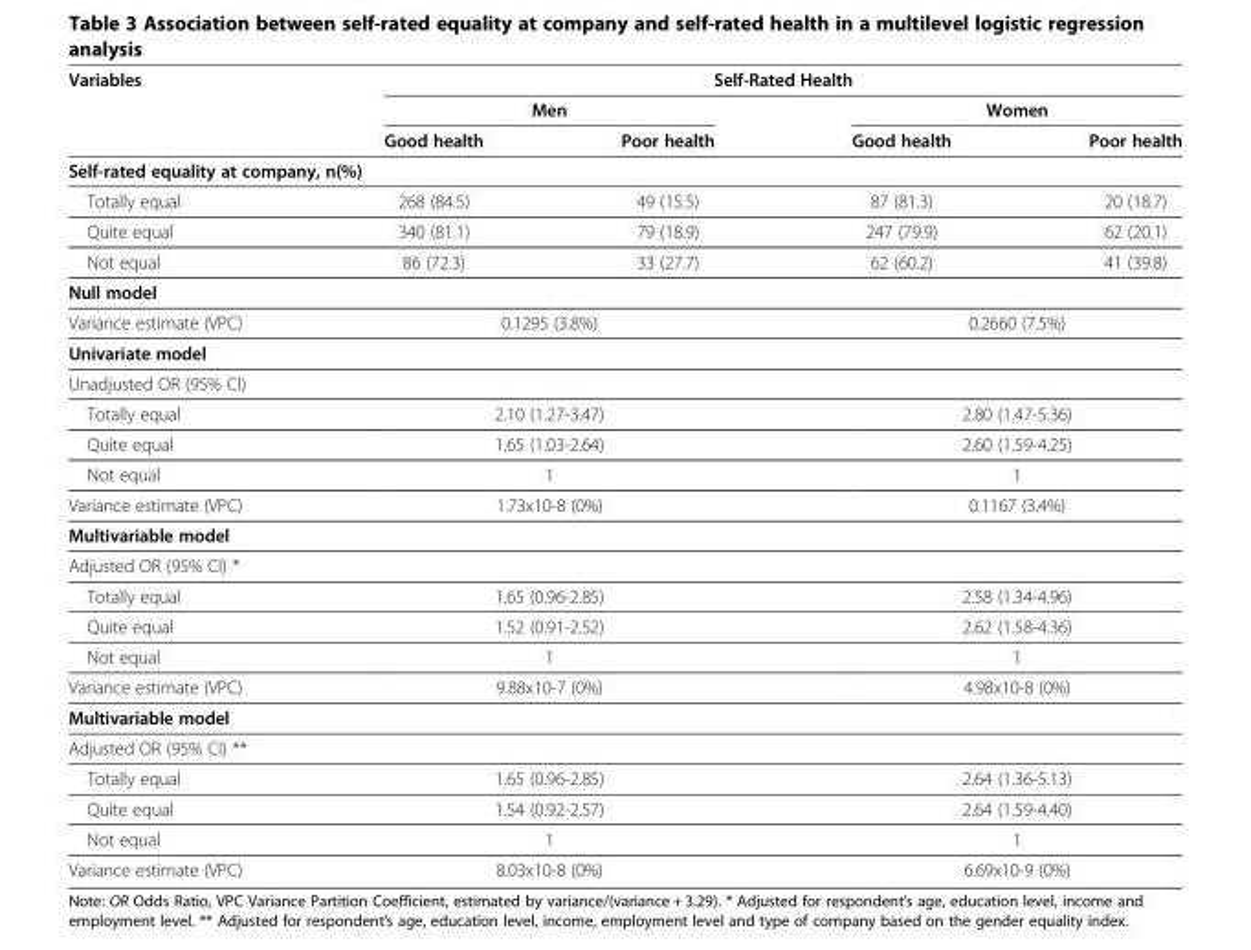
<table><thead><tr><td rowspan="3">Variables</td><td colspan="4">Self-Rated Health</td></tr><tr><td colspan="2">Men</td><td colspan="2">Women</td></tr><tr><td>Good health</td><td>Poor health</td><td>Good health</td><td>Poor health</td></tr></thead><tbody><tr><td colspan="5">Self-rated equality at company, n(%)</td></tr><tr><td>Totally equal</td><td>268 (84.5)</td><td>49 (15.5)</td><td>87 (81.3)</td><td>20 (18.7)</td></tr><tr><td>Quite equal</td><td>340 (81.1)</td><td>79 (18.9)</td><td>247 (79.9)</td><td>62 (20.1)</td></tr><tr><td>Not equal</td><td>86 (72.3)</td><td>33 (27.7)</td><td>62 (60.2)</td><td>41 (39.8)</td></tr><tr><td colspan="5">Null model</td></tr><tr><td>Variance estimate (VPC)</td><td colspan="2">0.1295 (3.8%)</td><td colspan="2">0.2660 (7.5%)</td></tr><tr><td colspan="5">Univariate model</td></tr><tr><td colspan="5">Unadjusted OR (95% CI)</td></tr><tr><td>Totally equal</td><td colspan="2">2.10 (1.27-3.47)</td><td colspan="2">2.80 (1.47-5.36)</td></tr><tr><td>Quite equal</td><td colspan="2">1.65 (1.03-2.64)</td><td colspan="2">2.60 (1.59-4.25)</td></tr><tr><td>Not equal</td><td colspan="2">1</td><td colspan="2">1</td></tr><tr><td>Variance estimate (VPC)</td><td colspan="2">1.73x10-8 (0%)</td><td colspan="2">0.1167 (3.4%)</td></tr><tr><td colspan="5">Multivariable model</td></tr><tr><td colspan="5">Adjusted OR (95% CI) *</td></tr><tr><td>Totally equal</td><td colspan="2">1.65 (0.96-2.85)</td><td colspan="2">2.58 (1.34-4.96)</td></tr><tr><td>Quite equal</td><td colspan="2">1.52 (0.91-2.52)</td><td colspan="2">2.62 (1.58-4.36)</td></tr><tr><td>Not equal</td><td colspan="2">1</td><td colspan="2">1</td></tr><tr><td>Variance estimate (VPC)</td><td colspan="2">9.88x10-7 (0%)</td><td colspan="2">4.98x10-8 (0%)</td></tr><tr><td colspan="5">Multivariable model</td></tr><tr><td colspan="5">Adjusted OR (95% CI) **</td></tr><tr><td>Totally equal</td><td colspan="2">1.65 (0.96-2.85)</td><td colspan="2">2.64 (1.36-5.13)</td></tr><tr><td>Quite equal</td><td colspan="2">1.54 (0.92-2.57)</td><td colspan="2">2.64 (1.59-4.40)</td></tr><tr><td>Not equal</td><td colspan="2">1</td><td colspan="2">1</td></tr><tr><td>Variance estimate (VPC)</td><td colspan="2">8.03x10-8 (0%)</td><td colspan="2">6.69x10-9 (0%)</td></tr></tbody></table>